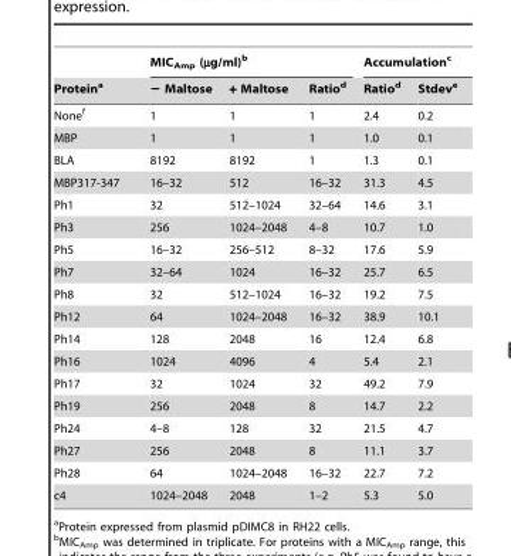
<table><thead><tr><td rowspan="2">Protein<sup>a</sup></td><td colspan="3">MIC<sub>Amp</sub> (µg/ml)<sup>b</sup></td><td colspan="2">Accumulation<sup>c</sup></td></tr><tr><td>− Maltose</td><td>+ Maltose</td><td>Ratio<sup>d</sup></td><td>Ratio<sup>d</sup></td><td>Stdev<sup>e</sup></td></tr></thead><tbody><tr><td>None<sup>f</sup></td><td>1</td><td>1</td><td>1</td><td>2.4</td><td>0.2</td></tr><tr><td>MBP</td><td>1</td><td>1</td><td>1</td><td>1.0</td><td>0.1</td></tr><tr><td>BLA</td><td>8192</td><td>8192</td><td>1</td><td>1.3</td><td>0.1</td></tr><tr><td>MBP317-347</td><td>16–32</td><td>512</td><td>16–32</td><td>31.3</td><td>4.5</td></tr><tr><td>Ph1</td><td>32</td><td>512–1024</td><td>32–64</td><td>14.6</td><td>3.1</td></tr><tr><td>Ph3</td><td>256</td><td>1024–2048</td><td>4–8</td><td>10.7</td><td>1.0</td></tr><tr><td>Ph5</td><td>16–32</td><td>256–512</td><td>8–32</td><td>17.6</td><td>5.9</td></tr><tr><td>Ph7</td><td>32–64</td><td>1024</td><td>16–32</td><td>25.7</td><td>6.5</td></tr><tr><td>Ph8</td><td>32</td><td>512–1024</td><td>16–32</td><td>19.2</td><td>7.5</td></tr><tr><td>Ph12</td><td>64</td><td>1024–2048</td><td>16–32</td><td>38.9</td><td>10.1</td></tr><tr><td>Ph14</td><td>128</td><td>2048</td><td>16</td><td>12.4</td><td>6.8</td></tr><tr><td>Ph16</td><td>1024</td><td>4096</td><td>4</td><td>5.4</td><td>2.1</td></tr><tr><td>Ph17</td><td>32</td><td>1024</td><td>32</td><td>49.2</td><td>7.9</td></tr><tr><td>Ph19</td><td>256</td><td>2048</td><td>8</td><td>14.7</td><td>2.2</td></tr><tr><td>Ph24</td><td>4–8</td><td>128</td><td>32</td><td>21.5</td><td>4.7</td></tr><tr><td>Ph27</td><td>256</td><td>2048</td><td>8</td><td>11.1</td><td>3.7</td></tr><tr><td>Ph28</td><td>64</td><td>1024–2048</td><td>16–32</td><td>22.7</td><td>7.2</td></tr><tr><td>c4</td><td>1024–2048</td><td>2048</td><td>1–2</td><td>5.3</td><td>5.0</td></tr></tbody></table>